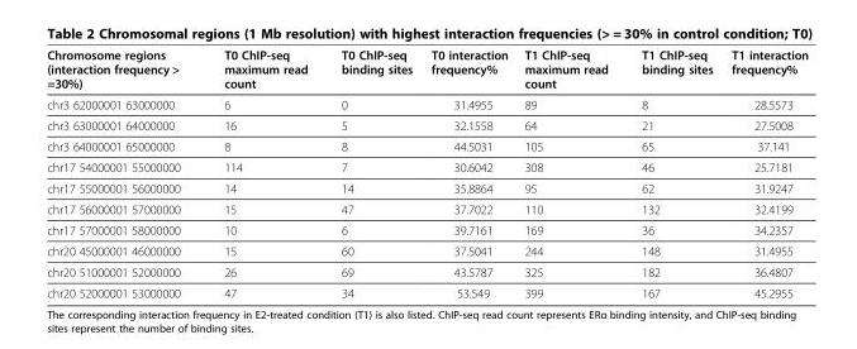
<table><thead><tr><td>Chromosome regions (interaction frequency &gt; =30%)</td><td>T0 ChIP-seq maximum read count</td><td>T0 ChIP-seq binding sites</td><td>T0 interaction frequency%</td><td>T1 ChIP-seq maximum read count</td><td>T1 ChIP-seq binding sites</td><td>T1 interaction frequency%</td></tr></thead><tbody><tr><td>chr3 62000001 63000000</td><td>6</td><td>0</td><td>31.4955</td><td>89</td><td>8</td><td>28.5573</td></tr><tr><td>chr3 63000001 64000000</td><td>16</td><td>5</td><td>32.1558</td><td>64</td><td>21</td><td>27.5008</td></tr><tr><td>chr3 64000001 65000000</td><td>8</td><td>8</td><td>44.5031</td><td>105</td><td>65</td><td>37.141</td></tr><tr><td>chr17 54000001 55000000</td><td>114</td><td>7</td><td>30.6042</td><td>308</td><td>46</td><td>25.7181</td></tr><tr><td>chr17 55000001 56000000</td><td>14</td><td>14</td><td>35.8864</td><td>95</td><td>62</td><td>31.9247</td></tr><tr><td>chr17 56000001 57000000</td><td>15</td><td>47</td><td>37.7022</td><td>110</td><td>132</td><td>32.4199</td></tr><tr><td>chr17 57000001 58000000</td><td>10</td><td>6</td><td>39.7161</td><td>169</td><td>36</td><td>34.2357</td></tr><tr><td>chr20 45000001 46000000</td><td>15</td><td>60</td><td>37.5041</td><td>244</td><td>148</td><td>31.4955</td></tr><tr><td>chr20 51000001 52000000</td><td>26</td><td>69</td><td>43.5787</td><td>325</td><td>182</td><td>36.4807</td></tr><tr><td>chr20 52000001 53000000</td><td>47</td><td>34</td><td>53.549</td><td>399</td><td>167</td><td>45.2955</td></tr></tbody></table>